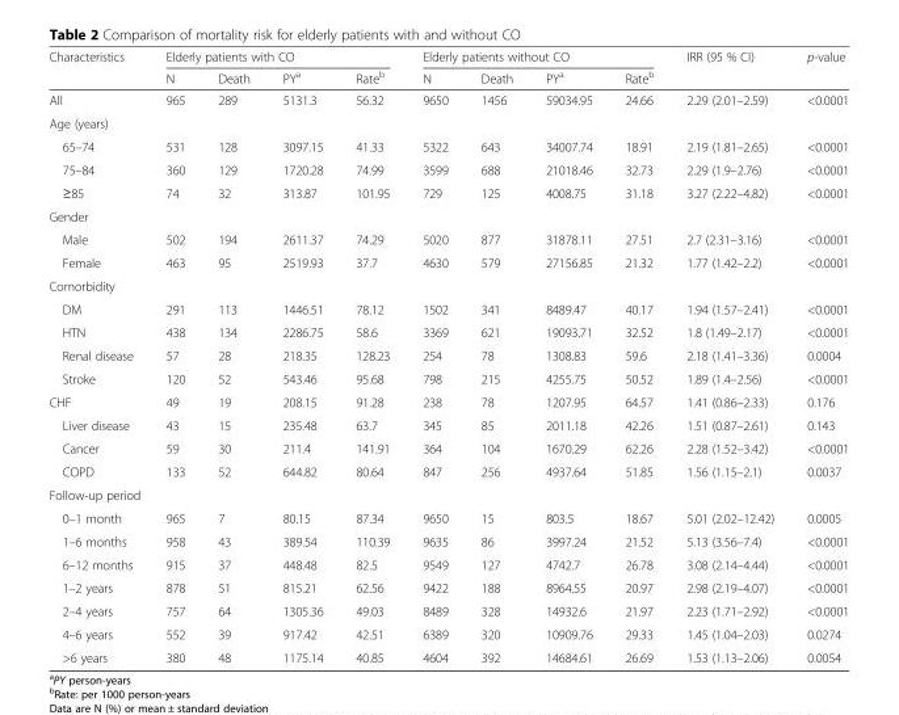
<table><thead><tr><td rowspan="2">Characteristics</td><td colspan="4">Elderly patients with CO</td><td colspan="4">Elderly patients without CO</td><td rowspan="2">IRR (95 % CI)</td><td rowspan="2">p-value</td></tr><tr><td>N</td><td>Death</td><td>PY<sup>a</sup></td><td>Rate<sup>b</sup></td><td>N</td><td>Death</td><td>PY<sup>a</sup></td><td>Rate<sup>b</sup></td></tr></thead><tbody><tr><td>All</td><td>965</td><td>289</td><td>5131.3</td><td>56.32</td><td>9650</td><td>1456</td><td>59034.95</td><td>24.66</td><td>2.29 (2.01–2.59)</td><td>&lt;0.0001</td></tr><tr><td colspan="11">Age (years)</td></tr><tr><td>65–74</td><td>531</td><td>128</td><td>3097.15</td><td>41.33</td><td>5322</td><td>643</td><td>34007.74</td><td>18.91</td><td>2.19 (1.81–2.65)</td><td>&lt;0.0001</td></tr><tr><td>75–84</td><td>360</td><td>129</td><td>1720.28</td><td>74.99</td><td>3599</td><td>688</td><td>21018.46</td><td>32.73</td><td>2.29 (1.9–2.76)</td><td>&lt;0.0001</td></tr><tr><td>≥85</td><td>74</td><td>32</td><td>313.87</td><td>101.95</td><td>729</td><td>125</td><td>4008.75</td><td>31.18</td><td>3.27 (2.22–4.82)</td><td>&lt;0.0001</td></tr><tr><td colspan="11">Gender</td></tr><tr><td>Male</td><td>502</td><td>194</td><td>2611.37</td><td>74.29</td><td>5020</td><td>877</td><td>31878.11</td><td>27.51</td><td>2.7 (2.31–3.16)</td><td>&lt;0.0001</td></tr><tr><td>Female</td><td>463</td><td>95</td><td>2519.93</td><td>37.7</td><td>4630</td><td>579</td><td>27156.85</td><td>21.32</td><td>1.77 (1.42–2.2)</td><td>&lt;0.0001</td></tr><tr><td colspan="11">Comorbidity</td></tr><tr><td>DM</td><td>291</td><td>113</td><td>1446.51</td><td>78.12</td><td>1502</td><td>341</td><td>8489.47</td><td>40.17</td><td>1.94 (1.57–2.41)</td><td>&lt;0.0001</td></tr><tr><td>HTN</td><td>438</td><td>134</td><td>2286.75</td><td>58.6</td><td>3369</td><td>621</td><td>19093.71</td><td>32.52</td><td>1.8 (1.49–2.17)</td><td>&lt;0.0001</td></tr><tr><td>Renal disease</td><td>57</td><td>28</td><td>218.35</td><td>128.23</td><td>254</td><td>78</td><td>1308.83</td><td>59.6</td><td>2.18 (1.41–3.36)</td><td>0.0004</td></tr><tr><td>Stroke</td><td>120</td><td>52</td><td>543.46</td><td>95.68</td><td>798</td><td>215</td><td>4255.75</td><td>50.52</td><td>1.89 (1.4–2.56)</td><td>&lt;0.0001</td></tr><tr><td>CHF</td><td>49</td><td>19</td><td>208.15</td><td>91.28</td><td>238</td><td>78</td><td>1207.95</td><td>64.57</td><td>1.41 (0.86–2.33)</td><td>0.176</td></tr><tr><td>Liver disease</td><td>43</td><td>15</td><td>235.48</td><td>63.7</td><td>345</td><td>85</td><td>2011.18</td><td>42.26</td><td>1.51 (0.87–2.61)</td><td>0.143</td></tr><tr><td>Cancer</td><td>59</td><td>30</td><td>211.4</td><td>141.91</td><td>364</td><td>104</td><td>1670.29</td><td>62.26</td><td>2.28 (1.52–3.42)</td><td>&lt;0.0001</td></tr><tr><td>COPD</td><td>133</td><td>52</td><td>644.82</td><td>80.64</td><td>847</td><td>256</td><td>4937.64</td><td>51.85</td><td>1.56 (1.15–2.1)</td><td>0.0037</td></tr><tr><td colspan="11">Follow-up period</td></tr><tr><td>0–1 month</td><td>965</td><td>7</td><td>80.15</td><td>87.34</td><td>9650</td><td>15</td><td>803.5</td><td>18.67</td><td>5.01 (2.02–12.42)</td><td>0.0005</td></tr><tr><td>1–6 months</td><td>958</td><td>43</td><td>389.54</td><td>110.39</td><td>9635</td><td>86</td><td>3997.24</td><td>21.52</td><td>5.13 (3.56–7.4)</td><td>&lt;0.0001</td></tr><tr><td>6–12 months</td><td>915</td><td>37</td><td>448.48</td><td>82.5</td><td>9549</td><td>127</td><td>4742.7</td><td>26.78</td><td>3.08 (2.14–4.44)</td><td>&lt;0.0001</td></tr><tr><td>1–2 years</td><td>878</td><td>51</td><td>815.21</td><td>62.56</td><td>9422</td><td>188</td><td>8964.55</td><td>20.97</td><td>2.98 (2.19–4.07)</td><td>&lt;0.0001</td></tr><tr><td>2–4 years</td><td>757</td><td>64</td><td>1305.36</td><td>49.03</td><td>8489</td><td>328</td><td>14932.6</td><td>21.97</td><td>2.23 (1.71–2.92)</td><td>&lt;0.0001</td></tr><tr><td>4–6 years</td><td>552</td><td>39</td><td>917.42</td><td>42.51</td><td>6389</td><td>320</td><td>10909.76</td><td>29.33</td><td>1.45 (1.04–2.03)</td><td>0.0274</td></tr><tr><td>&gt;6 years</td><td>380</td><td>48</td><td>1175.14</td><td>40.85</td><td>4604</td><td>392</td><td>14684.61</td><td>26.69</td><td>1.53 (1.13–2.06)</td><td>0.0054</td></tr></tbody></table>